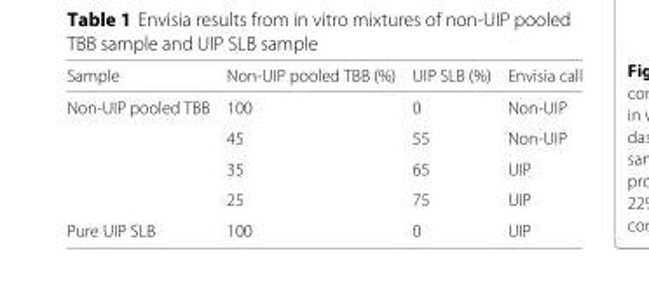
<table><thead><tr><td>Sample</td><td>Non-UIP pooled TBB (%)</td><td>UIP SLB (%)</td><td>Envisia call</td></tr></thead><tbody><tr><td rowspan="4">Non-UIP pooled TBB</td><td>100</td><td>0</td><td>Non-UIP</td></tr><tr><td>45</td><td>55</td><td>Non-UIP</td></tr><tr><td>35</td><td>65</td><td>UIP</td></tr><tr><td>25</td><td>75</td><td>UIP</td></tr><tr><td>Pure UIP SLB</td><td>100</td><td>0</td><td>UIP</td></tr></tbody></table>